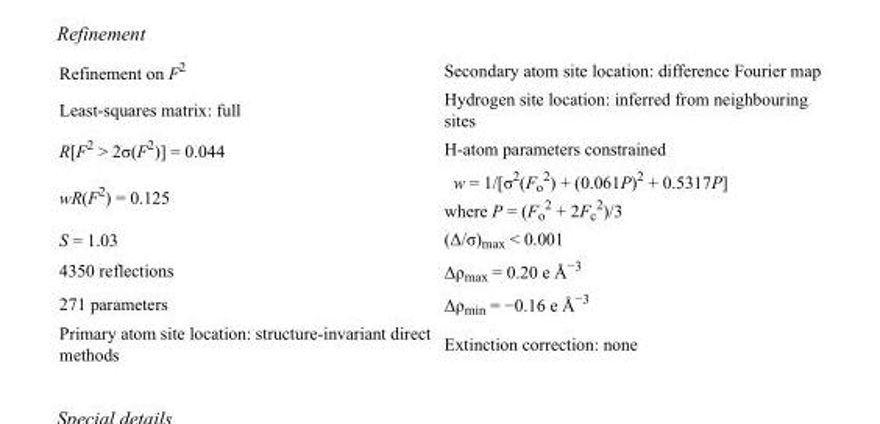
<table><tbody><tr><td>Refinement on F<sup>2</sup></td><td>Secondary atom site location: difference Fourier map</td></tr><tr><td>Least-squares matrix: full</td><td>Hydrogen site location: inferred from neighbouring sites</td></tr><tr><td>R[F<sup>2</sup> &gt; 2σ(F<sup>2</sup>)] = 0.044</td><td>H-atom parameters constrained</td></tr><tr><td>wR(F<sup>2</sup>) = 0.125</td><td>w = 1/[σ<sup>2</sup>(F<sub>o</sub> <sup>2</sup>) + (0.061P)<sup>2</sup> + 0.5317P] where P = (F<sub>o</sub> <sup>2</sup> + 2F<sub>c</sub> <sup>2</sup>)/3</td></tr><tr><td>S = 1.03</td><td>(Δ/σ)<sub>max</sub> &lt; 0.001</td></tr><tr><td>4350 reflections</td><td>Δρ<sub>max</sub> = 0.20 e Å<sup>−3</sup></td></tr><tr><td>271 parameters</td><td>Δρ<sub>min</sub> = −0.16 e Å<sup>−3</sup></td></tr><tr><td>Primary atom site location: structure-invariant direct methods</td><td>Extinction correction: none</td></tr></tbody></table>